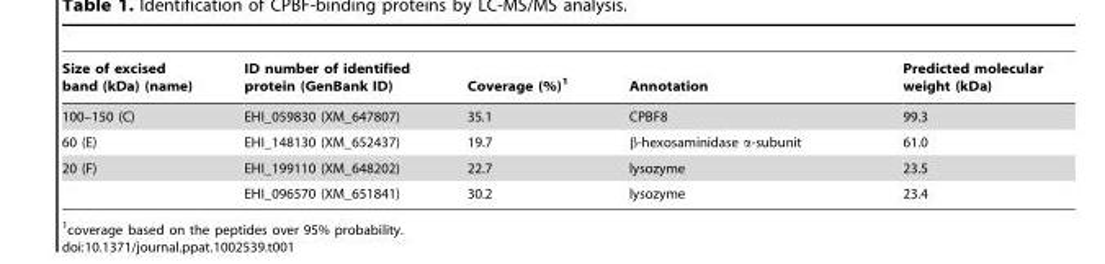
<table><thead><tr><td>Size of excised band (kDa) (name)</td><td>ID number of identified protein (GenBank ID)</td><td>Coverage (%)<sup>1</sup></td><td>Annotation</td><td>Predicted molecular weight (kDa)</td></tr></thead><tbody><tr><td>100–150 (C)</td><td>EHI_059830 (XM_647807)</td><td>35.1</td><td>CPBF8</td><td>99.3</td></tr><tr><td>60 (E)</td><td>EHI_148130 (XM_652437)</td><td>19.7</td><td>β-hexosaminidase α-subunit</td><td>61.0</td></tr><tr><td rowspan="2">20 (F)</td><td>EHI_199110 (XM_648202)</td><td>22.7</td><td>lysozyme</td><td>23.5</td></tr><tr><td>EHI_096570 (XM_651841)</td><td>30.2</td><td>lysozyme</td><td>23.4</td></tr></tbody></table>